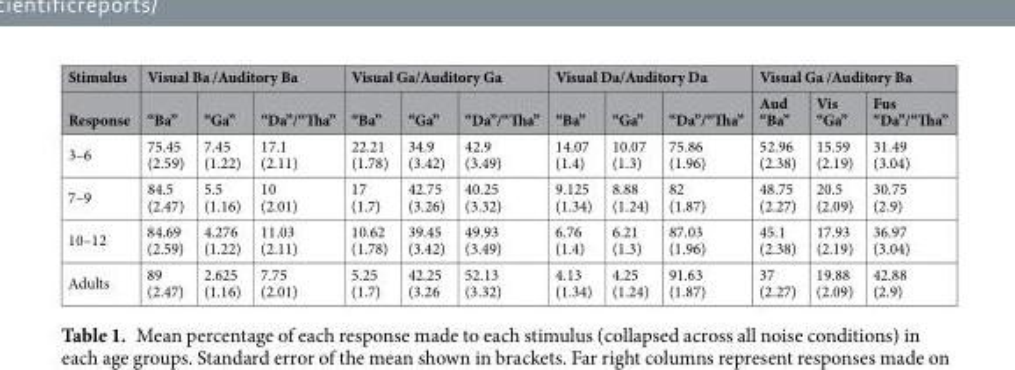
<table><thead><tr><td rowspan="2">Stimulus Response</td><td colspan="3">Visual Ba /Auditory Ba</td><td colspan="3">Visual Ga/Auditory Ga</td><td colspan="3">Visual Da/Auditory Da</td><td colspan="3">Visual Ga /Auditory Ba</td></tr><tr><td>“Ba”</td><td>“Ga”</td><td>“Da”/“Tha”</td><td>“Ba”</td><td>“Ga”</td><td>“Da”/“Tha”</td><td>“Ba”</td><td>“Ga”</td><td>“Da”/“Tha”</td><td>Aud “Ba”</td><td>Vis “Ga”</td><td>Fus “Da”/“Tha”</td></tr></thead><tbody><tr><td>3–6</td><td>75.45 (2.59)</td><td>7.45 (1.22)</td><td>17.1 (2.11)</td><td>22.21 (1.78)</td><td>34.9 (3.42)</td><td>42.9 (3.49)</td><td>14.07 (1.4)</td><td>10.07 (1.3)</td><td>75.86 (1.96)</td><td>52.96 (2.38)</td><td>15.59 (2.19)</td><td>31.49 (3.04)</td></tr><tr><td>7–9</td><td>84.5 (2.47)</td><td>5.5 (1.16)</td><td>10 (2.01)</td><td>17 (1.7)</td><td>42.75 (3.26)</td><td>40.25 (3.32)</td><td>9.125 (1.34)</td><td>8.88 (1.24)</td><td>82 (1.87)</td><td>48.75 (2.27)</td><td>20.5 (2.09)</td><td>30.75 (2.9)</td></tr><tr><td>10–12</td><td>84.69 (2.59)</td><td>4.276 (1.22)</td><td>11.03 (2.11)</td><td>10.62 (1.78)</td><td>39.45 (3.42)</td><td>49.93 (3.49)</td><td>6.76 (1.4)</td><td>6.21 (1.3)</td><td>87.03 (1.96)</td><td>45.1 (2.38)</td><td>17.93 (2.19)</td><td>36.97 (3.04)</td></tr><tr><td>Adults</td><td>89 (2.47)</td><td>2.625 (1.16)</td><td>7.75 (2.01)</td><td>5.25 (1.7)</td><td>42.25 (3.26</td><td>52.13 (3.32)</td><td>4.13 (1.34)</td><td>4.25 (1.24)</td><td>91.63 (1.87)</td><td>37 (2.27)</td><td>19.88 (2.09)</td><td>42.88 (2.9)</td></tr></tbody></table>